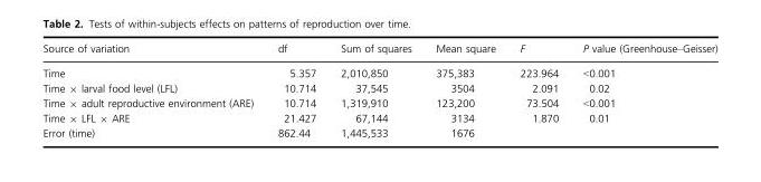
<table><thead><tr><td>Source of variation</td><td>df</td><td>Sum of squares</td><td>Mean square</td><td>F</td><td>P value (Greenhouse–Geisser)</td></tr></thead><tbody><tr><td>Time</td><td>5.357</td><td>2,010,850</td><td>375,383</td><td>223.964</td><td>&lt;0.001</td></tr><tr><td>Time × larval food level (LFL)</td><td>10.714</td><td>37,545</td><td>3504</td><td>2.091</td><td>0.02</td></tr><tr><td>Time × adult reproductive environment (ARE)</td><td>10.714</td><td>1,319,910</td><td>123,200</td><td>73.504</td><td>&lt;0.001</td></tr><tr><td>Time × LFL × ARE</td><td>21.427</td><td>67,144</td><td>3134</td><td>1.870</td><td>0.01</td></tr><tr><td>Error (time)</td><td>862.44</td><td>1,445,533</td><td>1676</td><td></td><td></td></tr></tbody></table>